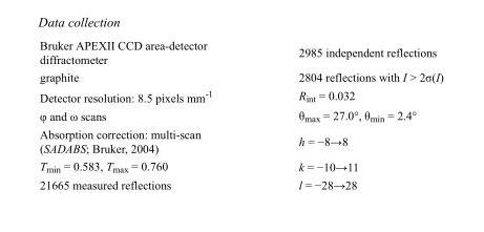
<table><tbody><tr><td>Bruker APEXII CCD area-detector diffractometer</td><td>2985 independent reflections</td></tr><tr><td>graphite</td><td>2804 reflections with I &gt; 2σ(I)</td></tr><tr><td>Detector resolution: 8.5 pixels mm<sup>-1</sup></td><td>R<sub>int</sub> = 0.032</td></tr><tr><td>φ and ω scans</td><td>θ<sub>max</sub> = 27.0°, θ<sub>min</sub> = 2.4°</td></tr><tr><td>Absorption correction: multi-scan (SADABS; Bruker, 2004)</td><td>h = −8→8</td></tr><tr><td>T<sub>min</sub> = 0.583, T<sub>max</sub> = 0.760</td><td>k = −10→11</td></tr><tr><td>21665 measured reflections</td><td>l = −28→28</td></tr></tbody></table>